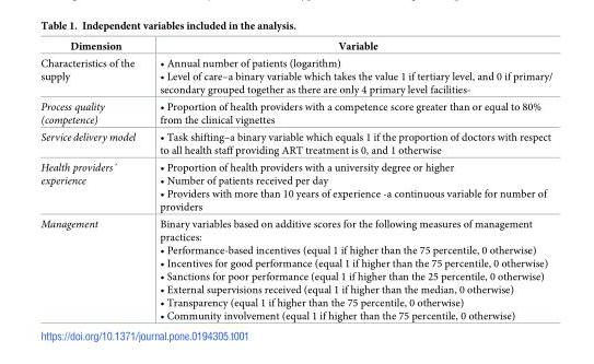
<table><thead><tr><td>Dimension</td><td>Variable</td></tr></thead><tbody><tr><td>Characteristics of the supply</td><td>• Annual number of patients (logarithm) • Level of care–a binary variable which takes the value 1 if tertiary level, and 0 if primary/ secondary grouped together as there are only 4 primary level facilities-</td></tr><tr><td>Process quality (competence)</td><td>• Proportion of health providers with a competence score greater than or equal to 80% from the clinical vignettes</td></tr><tr><td>Service delivery model</td><td>• Task shifting–a binary variable which equals 1 if the proportion of doctors with respect to all health staff providing ART treatment is 0, and 1 otherwise</td></tr><tr><td>Health providers´ experience</td><td>• Proportion of health providers with a university degree or higher • Number of patients received per day • Providers with more than 10 years of experience -a continuous variable for number of providers</td></tr><tr><td>Management</td><td>Binary variables based on additive scores for the following measures of management practices: • Performance-based incentives (equal 1 if higher than the 75 percentile, 0 otherwise) • Incentives for good performance (equal 1 if higher than the 75 percentile, 0 otherwise) • Sanctions for poor performance (equal 1 if higher than the 25 percentile, 0 otherwise) • External supervisions received (equal 1 if higher than the median, 0 otherwise) • Transparency (equal 1 if higher than the 75 percentile, 0 otherwise) • Community involvement (equal 1 if higher than the 75 percentile, 0 otherwise)</td></tr></tbody></table>